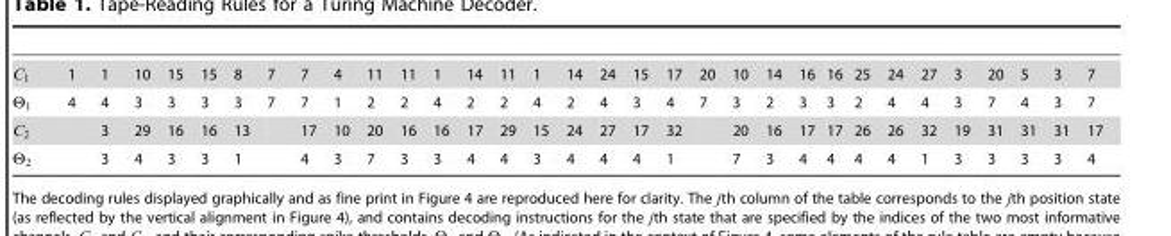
<table><tbody><tr><td>1</td><td>1</td><td>10</td><td>15</td><td>15</td><td>8</td><td>7</td><td>7</td><td>4</td><td>11</td><td>11</td><td>1</td><td>14</td><td>11</td><td>1</td><td>14</td><td>24</td><td>15</td><td>17</td><td>20</td><td>10</td><td>14</td><td>16</td><td>16</td><td>25</td><td>24</td><td>27</td><td>3</td><td>20</td><td>5</td><td>3</td><td>7</td></tr><tr><td rowspan="3">4</td><td>4</td><td>3</td><td>3</td><td>3</td><td>3</td><td>7</td><td>7</td><td>1</td><td>2</td><td>2</td><td>4</td><td>2</td><td>2</td><td>4</td><td>2</td><td>4</td><td>3</td><td>4</td><td>7</td><td>3</td><td>2</td><td>3</td><td>3</td><td>2</td><td>4</td><td>4</td><td>3</td><td>7</td><td>4</td><td>3</td><td>7</td></tr><tr><td>3</td><td>29</td><td>16</td><td>16</td><td>13</td><td></td><td>17</td><td>10</td><td>20</td><td>16</td><td>16</td><td>17</td><td>29</td><td>15</td><td>24</td><td>27</td><td>17</td><td>32</td><td></td><td>20</td><td>16</td><td>17</td><td>17</td><td>26</td><td>26</td><td>32</td><td>19</td><td>31</td><td>31</td><td>31</td><td>17</td></tr><tr><td>3</td><td>4</td><td>3</td><td>3</td><td>1</td><td></td><td>4</td><td>3</td><td>7</td><td>3</td><td>3</td><td>4</td><td>4</td><td>3</td><td>4</td><td>4</td><td>4</td><td>1</td><td></td><td>7</td><td>3</td><td>4</td><td>4</td><td>4</td><td>4</td><td>1</td><td>3</td><td>3</td><td>3</td><td>3</td><td>4</td></tr></tbody></table>